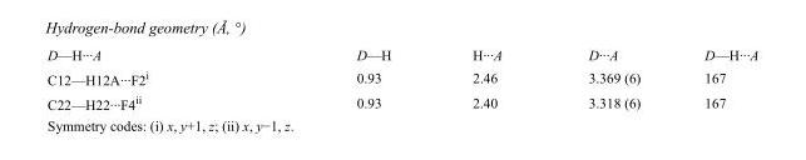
<table><tbody><tr><td>D—H···A</td><td>D—H</td><td>H···A</td><td>D···A</td><td>D—H···A</td></tr><tr><td>C12—H12A···F2<sup>i</sup></td><td>0.93</td><td>2.46</td><td>3.369 (6)</td><td>167</td></tr><tr><td>C22—H22···F4<sup>ii</sup></td><td>0.93</td><td>2.40</td><td>3.318 (6)</td><td>167</td></tr></tbody></table>